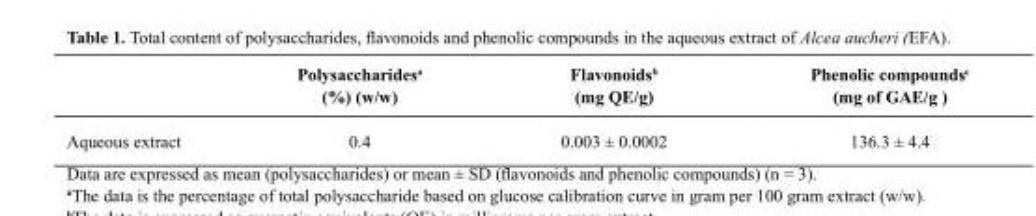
<table><thead><tr><td>Phenolic compoundsc (mg of GAE/g )</td><td>Flavonoidsb (mg QE/g)</td><td>Polysaccharidesa (%) (w/w)</td><td></td></tr></thead><tbody><tr><td>136.3 ± 4.4</td><td>0.003 ± 0.0002</td><td>0.4</td><td>Aqueous extract</td></tr></tbody></table>